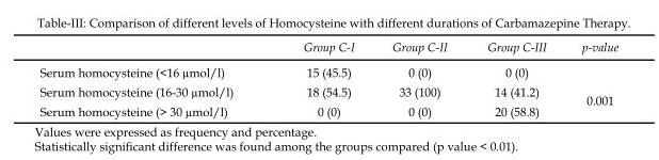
<table><thead><tr><td></td><td>Group C-I</td><td>Group C-II</td><td>Group C-III</td><td>p-value</td></tr></thead><tbody><tr><td>Serum homocysteine (&lt;16 µmol/l)</td><td>15 (45.5)</td><td>0 (0)</td><td>0 (0)</td><td rowspan="3">0.001</td></tr><tr><td>Serum homocysteine (16-30 µmol/l)</td><td>18 (54.5)</td><td>33 (100)</td><td>14 (41.2)</td></tr><tr><td>Serum homocysteine (&gt; 30 µmol/l)</td><td>0 (0)</td><td>0 (0)</td><td>20 (58.8)</td></tr></tbody></table>